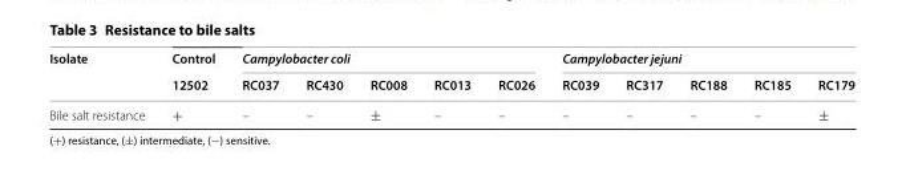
<table><thead><tr><td rowspan="2">Isolate</td><td rowspan="2">Control 12502</td><td colspan="5">Campylobacter coli</td><td colspan="5">Campylobacter jejuni</td></tr><tr><td>RC037</td><td>RC430</td><td>RC008</td><td>RC013</td><td>RC026</td><td>RC039</td><td>RC317</td><td>RC188</td><td>RC185</td><td>RC179</td></tr></thead><tbody><tr><td>Bile salt resistance</td><td>+</td><td>–</td><td>–</td><td>±</td><td>–</td><td>–</td><td>–</td><td>–</td><td>–</td><td>–</td><td>±</td></tr></tbody></table>